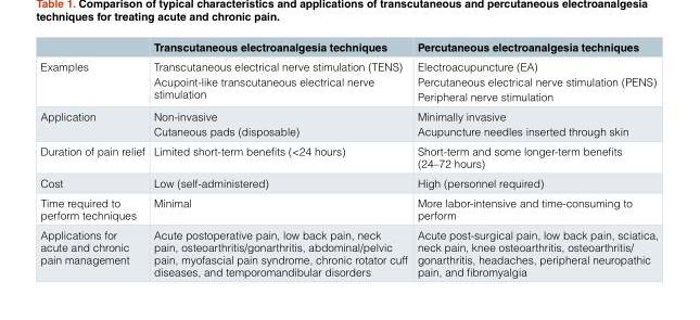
<table><thead><tr><td></td><td>Transcutaneous electroanalgesia techniques</td><td>Percutaneous electroanalgesia techniques</td></tr></thead><tbody><tr><td>Examples</td><td>Transcutaneous electrical nerve stimulation (TENS) Acupoint-like transcutaneous electrical nerve stimulation</td><td>Electroacupuncture (EA) Percutaneous electrical nerve stimulation (PENS) Peripheral nerve stimulation</td></tr><tr><td>Application</td><td>Non-invasive Cutaneous pads (disposable)</td><td>Minimally invasive Acupuncture needles inserted through skin</td></tr><tr><td>Duration of pain relief</td><td>Limited short-term benefits (&lt;24 hours)</td><td>Short-term and some longer-term benefits (24–72 hours)</td></tr><tr><td>Cost</td><td>Low (self-administered)</td><td>High (personnel required)</td></tr><tr><td>Time required to perform techniques</td><td>Minimal</td><td>More labor-intensive and time-consuming to perform</td></tr><tr><td>Applications for acute and chronic pain management</td><td>Acute postoperative pain, low back pain, neck pain, osteoarthritis/gonarthritis, abdominal/pelvic pain, myofascial pain syndrome, chronic rotator cuff diseases, and temporomandibular disorders</td><td>Acute post-surgical pain, low back pain, sciatica, neck pain, knee osteoarthritis, osteoarthritis/ gonarthritis, headaches, peripheral neuropathic pain, and fibromyalgia</td></tr></tbody></table>